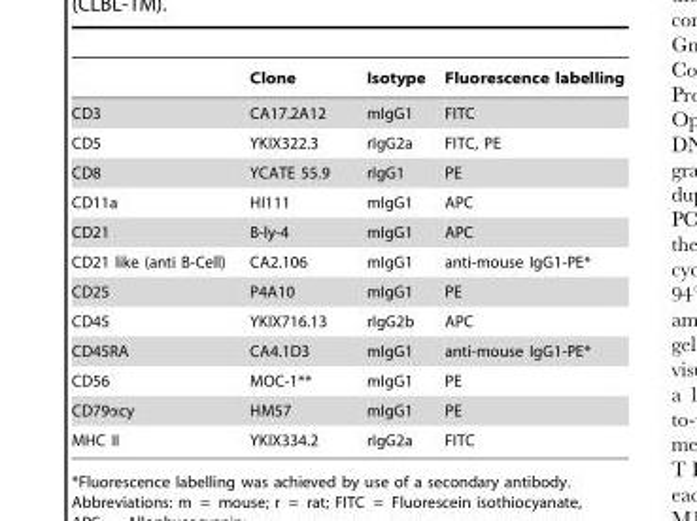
<table><thead><tr><td></td><td>Clone</td><td>Isotype</td><td>Fluorescence labelling</td></tr></thead><tbody><tr><td>CD3</td><td>CA17.2A12</td><td>mIgG1</td><td>FITC</td></tr><tr><td>CD5</td><td>YKIX322.3</td><td>rIgG2a</td><td>FITC, PE</td></tr><tr><td>CD8</td><td>YCATE 55.9</td><td>rIgG1</td><td>PE</td></tr><tr><td>CD11a</td><td>HI111</td><td>mIgG1</td><td>APC</td></tr><tr><td>CD21</td><td>B-ly-4</td><td>mIgG1</td><td>APC</td></tr><tr><td>CD21 like (anti B-Cell)</td><td>CA2.106</td><td>mIgG1</td><td>anti-mouse IgG1-PE*</td></tr><tr><td>CD25</td><td>P4A10</td><td>mIgG1</td><td>PE</td></tr><tr><td>CD45</td><td>YKIX716.13</td><td>rIgG2b</td><td>APC</td></tr><tr><td>CD45RA</td><td>CA4.1D3</td><td>mIgG1</td><td>anti-mouse IgG1-PE*</td></tr><tr><td>CD56</td><td>MOC-1**</td><td>mIgG1</td><td>PE</td></tr><tr><td>CD79αcy</td><td>HM57</td><td>mIgG1</td><td>PE</td></tr><tr><td>MHC II</td><td>YKIX334.2</td><td>rIgG2a</td><td>FITC</td></tr></tbody></table>